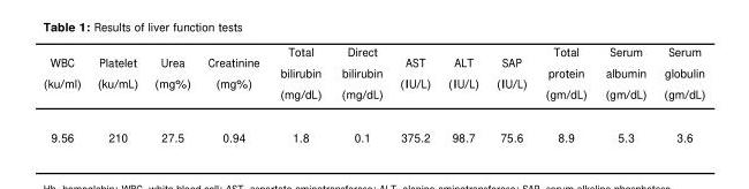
<table><thead><tr><td>WBC (ku/ml)</td><td>Platelet (ku/mL)</td><td>Urea (mg%)</td><td>Creatinine (mg%)</td><td>Total bilirubin (mg/dL)</td><td>Direct bilirubin (mg/dL)</td><td>AST (IU/L)</td><td>ALT (IU/L)</td><td>SAP (IU/L)</td><td>Total protein (gm/dL)</td><td>Serum albumin (gm/dL)</td><td>Serum globulin (gm/dL)</td></tr></thead><tbody><tr><td>9.56</td><td>210</td><td>27.5</td><td>0.94</td><td>1.8</td><td>0.1</td><td>375.2</td><td>98.7</td><td>75.6</td><td>8.9</td><td>5.3</td><td>3.6</td></tr></tbody></table>